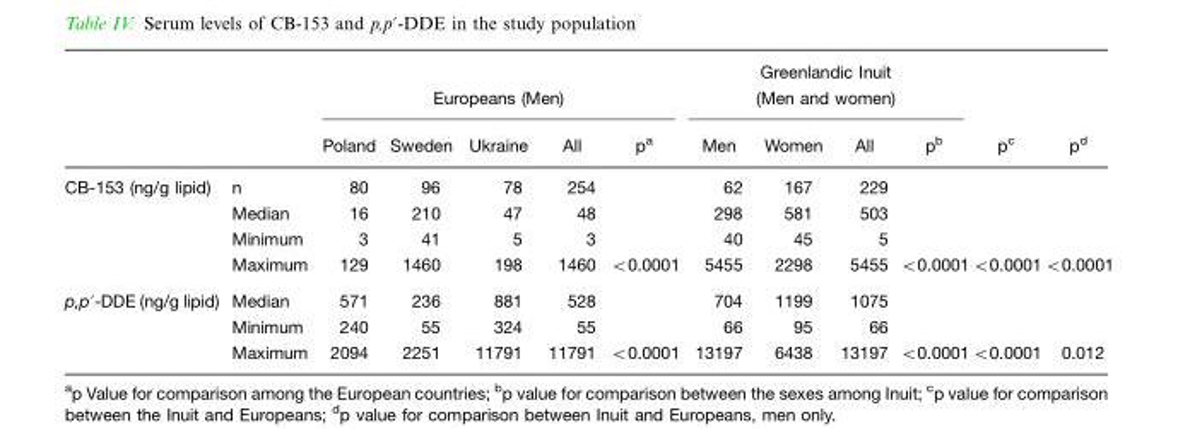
<table><thead><tr><td rowspan="2"></td><td rowspan="2"></td><td colspan="5">Europeans (Men)</td><td colspan="4">Greenlandic Inuit (Men and women)</td><td rowspan="2">p<sup>c</sup></td><td rowspan="2">p<sup>d</sup></td></tr><tr><td>Poland</td><td>Sweden</td><td>Ukraine</td><td>All</td><td>p<sup>a</sup></td><td>Men</td><td>Women</td><td>All</td><td>p<sup>b</sup></td></tr></thead><tbody><tr><td rowspan="4">CB-153 (ng/g lipid)</td><td>n</td><td>80</td><td>96</td><td>78</td><td>254</td><td></td><td>62</td><td>167</td><td>229</td><td></td><td></td><td></td></tr><tr><td>Median</td><td>16</td><td>210</td><td>47</td><td>48</td><td></td><td>298</td><td>581</td><td>503</td><td></td><td></td><td></td></tr><tr><td>Minimum</td><td>3</td><td>41</td><td>5</td><td>3</td><td></td><td>40</td><td>45</td><td>5</td><td></td><td></td><td></td></tr><tr><td>Maximum</td><td>129</td><td>1460</td><td>198</td><td>1460</td><td>&lt;0.0001</td><td>5455</td><td>2298</td><td>5455</td><td>&lt;0.0001</td><td>&lt;0.0001</td><td>&lt;0.0001</td></tr><tr><td rowspan="3">p,p′-DDE (ng/g lipid)</td><td>Median</td><td>571</td><td>236</td><td>881</td><td>528</td><td></td><td>704</td><td>1199</td><td>1075</td><td></td><td></td><td></td></tr><tr><td>Minimum</td><td>240</td><td>55</td><td>324</td><td>55</td><td></td><td>66</td><td>95</td><td>66</td><td></td><td></td><td></td></tr><tr><td>Maximum</td><td>2094</td><td>2251</td><td>11791</td><td>11791</td><td>&lt;0.0001</td><td>13197</td><td>6438</td><td>13197</td><td>&lt;0.0001</td><td>&lt;0.0001</td><td>0.012</td></tr></tbody></table>